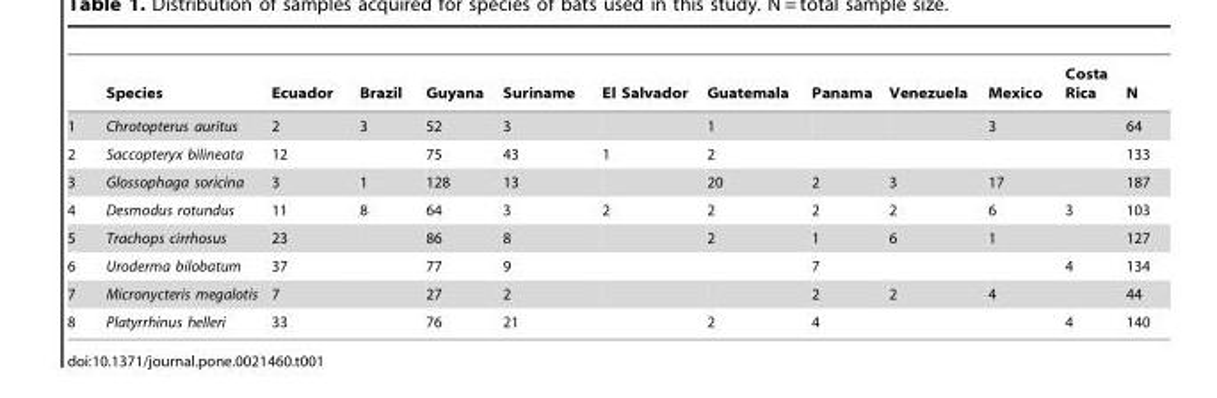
<table><thead><tr><td></td><td>Species</td><td>Ecuador</td><td>Brazil</td><td>Guyana</td><td>Suriname</td><td>El Salvador</td><td>Guatemala</td><td>Panama</td><td>Venezuela</td><td>Mexico</td><td>Costa Rica</td><td>N</td></tr></thead><tbody><tr><td>1</td><td>Chrotopterus auritus</td><td>2</td><td>3</td><td>52</td><td>3</td><td></td><td>1</td><td></td><td></td><td>3</td><td></td><td>64</td></tr><tr><td>2</td><td>Saccopteryx bilineata</td><td>12</td><td></td><td>75</td><td>43</td><td>1</td><td>2</td><td></td><td></td><td></td><td></td><td>133</td></tr><tr><td>3</td><td>Glossophaga soricina</td><td>3</td><td>1</td><td>128</td><td>13</td><td></td><td>20</td><td>2</td><td>3</td><td>17</td><td></td><td>187</td></tr><tr><td>4</td><td>Desmodus rotundus</td><td>11</td><td>8</td><td>64</td><td>3</td><td>2</td><td>2</td><td>2</td><td>2</td><td>6</td><td>3</td><td>103</td></tr><tr><td>5</td><td>Trachops cirrhosus</td><td>23</td><td></td><td>86</td><td>8</td><td></td><td>2</td><td>1</td><td>6</td><td>1</td><td></td><td>127</td></tr><tr><td>6</td><td>Uroderma bilobatum</td><td>37</td><td></td><td>77</td><td>9</td><td></td><td></td><td>7</td><td></td><td></td><td>4</td><td>134</td></tr><tr><td>7</td><td>Micronycteris megalotis</td><td>7</td><td></td><td>27</td><td>2</td><td></td><td></td><td>2</td><td>2</td><td>4</td><td></td><td>44</td></tr><tr><td>8</td><td>Platyrrhinus helleri</td><td>33</td><td></td><td>76</td><td>21</td><td></td><td>2</td><td>4</td><td></td><td></td><td>4</td><td>140</td></tr></tbody></table>